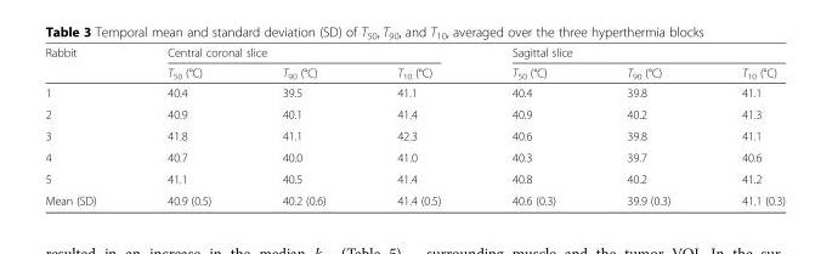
<table><thead><tr><td rowspan="2">Rabbit</td><td colspan="3">Central coronal slice</td><td colspan="3">Sagittal slice</td></tr><tr><td>T<sub>50</sub> (°C)</td><td>T<sub>90</sub> (°C)</td><td>T<sub>10</sub> (°C)</td><td>T<sub>50</sub> (°C)</td><td>T<sub>90</sub> (°C)</td><td>T<sub>10</sub> (°C)</td></tr></thead><tbody><tr><td>1</td><td>40.4</td><td>39.5</td><td>41.1</td><td>40.4</td><td>39.8</td><td>41.1</td></tr><tr><td>2</td><td>40.9</td><td>40.1</td><td>41.4</td><td>40.9</td><td>40.2</td><td>41.3</td></tr><tr><td>3</td><td>41.8</td><td>41.1</td><td>42.3</td><td>40.6</td><td>39.8</td><td>41.1</td></tr><tr><td>4</td><td>40.7</td><td>40.0</td><td>41.0</td><td>40.3</td><td>39.7</td><td>40.6</td></tr><tr><td>5</td><td>41.1</td><td>40.5</td><td>41.4</td><td>40.8</td><td>40.2</td><td>41.2</td></tr><tr><td>Mean (SD)</td><td>40.9 (0.5)</td><td>40.2 (0.6)</td><td>41.4 (0.5)</td><td>40.6 (0.3)</td><td>39.9 (0.3)</td><td>41.1 (0.3)</td></tr></tbody></table>